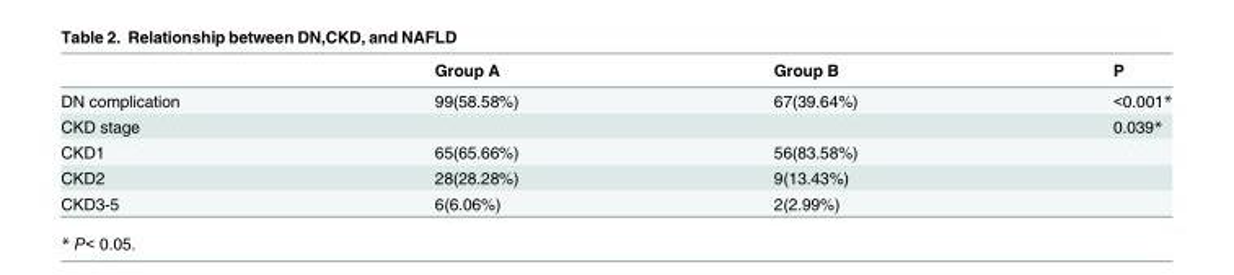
<table><thead><tr><td></td><td>Group A</td><td>Group B</td><td>P</td></tr></thead><tbody><tr><td>DN complication</td><td>99(58.58%)</td><td>67(39.64%)</td><td>&lt;0.001*</td></tr><tr><td>CKD stage</td><td></td><td></td><td>0.039*</td></tr><tr><td>CKD1</td><td>65(65.66%)</td><td>56(83.58%)</td><td></td></tr><tr><td>CKD2</td><td>28(28.28%)</td><td>9(13.43%)</td><td></td></tr><tr><td>CKD3-5</td><td>6(6.06%)</td><td>2(2.99%)</td><td></td></tr></tbody></table>